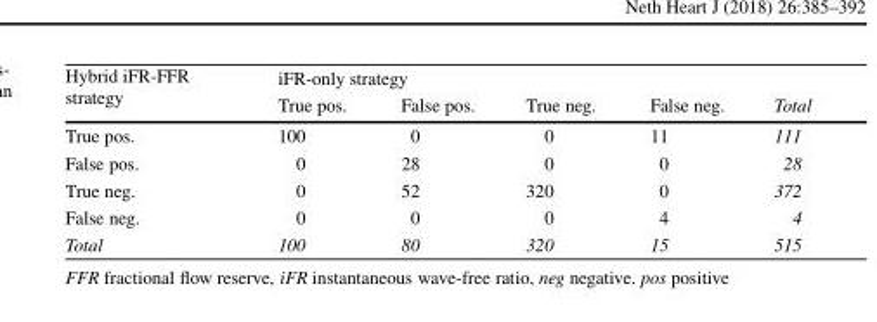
<table><thead><tr><td rowspan="2">Hybrid iFR-FFR strategy</td><td colspan="5">iFR-only strategy</td></tr><tr><td>True pos.</td><td>False pos.</td><td>True neg.</td><td>False neg.</td><td>Total</td></tr></thead><tbody><tr><td>True pos.</td><td>100</td><td>0</td><td>0</td><td>11</td><td>111</td></tr><tr><td>False pos.</td><td>0</td><td>28</td><td>0</td><td>0</td><td>28</td></tr><tr><td>True neg.</td><td>0</td><td>52</td><td>320</td><td>0</td><td>372</td></tr><tr><td>False neg.</td><td>0</td><td>0</td><td>0</td><td>4</td><td>4</td></tr><tr><td>Total</td><td>100</td><td>80</td><td>320</td><td>15</td><td>515</td></tr></tbody></table>